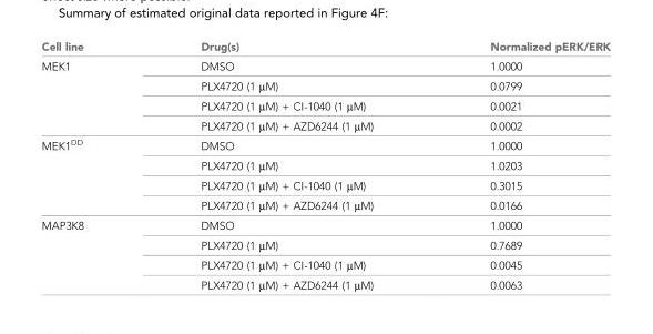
<table><thead><tr><td>Cell line</td><td>Drug(s)</td><td>Normalized pERK/ERK</td></tr></thead><tbody><tr><td rowspan="4">MEK1</td><td>DMSO</td><td>1.0000</td></tr><tr><td>PLX4720 (1 µM)</td><td>0.0799</td></tr><tr><td>PLX4720 (1 µM) + CI-1040 (1 µM)</td><td>0.0021</td></tr><tr><td>PLX4720 (1 µM) + AZD6244 (1 µM)</td><td>0.0002</td></tr><tr><td rowspan="4">MEK1<sup>DD</sup></td><td>DMSO</td><td>1.0000</td></tr><tr><td>PLX4720 (1 µM)</td><td>1.0203</td></tr><tr><td>PLX4720 (1 µM) + CI-1040 (1 µM)</td><td>0.3015</td></tr><tr><td>PLX4720 (1 µM) + AZD6244 (1 µM)</td><td>0.0166</td></tr><tr><td rowspan="4">MAP3K8</td><td>DMSO</td><td>1.0000</td></tr><tr><td>PLX4720 (1 µM)</td><td>0.7689</td></tr><tr><td>PLX4720 (1 µM) + CI-1040 (1 µM)</td><td>0.0045</td></tr><tr><td>PLX4720 (1 µM) + AZD6244 (1 µM)</td><td>0.0063</td></tr></tbody></table>